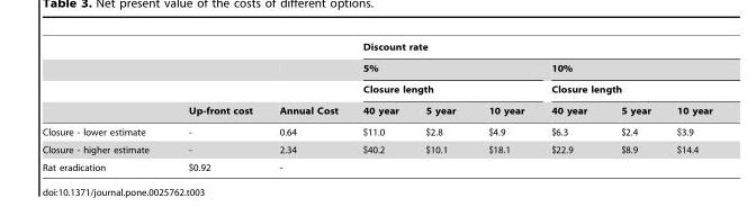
<table><thead><tr><td rowspan="4"></td><td rowspan="4">Up-front cost</td><td rowspan="4">Annual Cost</td><td colspan="6">Discount rate</td></tr><tr><td rowspan="2" colspan="3">5% Closure length</td><td rowspan="2" colspan="3">10% Closure length</td></tr><tr></tr><tr><td>40 year</td><td>5 year</td><td>10 year</td><td>40 year</td><td>5 year</td><td>10 year</td></tr></thead><tbody><tr><td>Closure - lower estimate</td><td>-</td><td>0.64</td><td>$11.0</td><td>$2.8</td><td>$4.9</td><td>$6.3</td><td>$2.4</td><td>$3.9</td></tr><tr><td>Closure - higher estimate</td><td>-</td><td>2.34</td><td>$40.2</td><td>$10.1</td><td>$18.1</td><td>$22.9</td><td>$8.9</td><td>$14.4</td></tr><tr><td>Rat eradication</td><td>$0.92</td><td>-</td><td></td><td></td><td></td><td></td><td></td><td></td></tr></tbody></table>